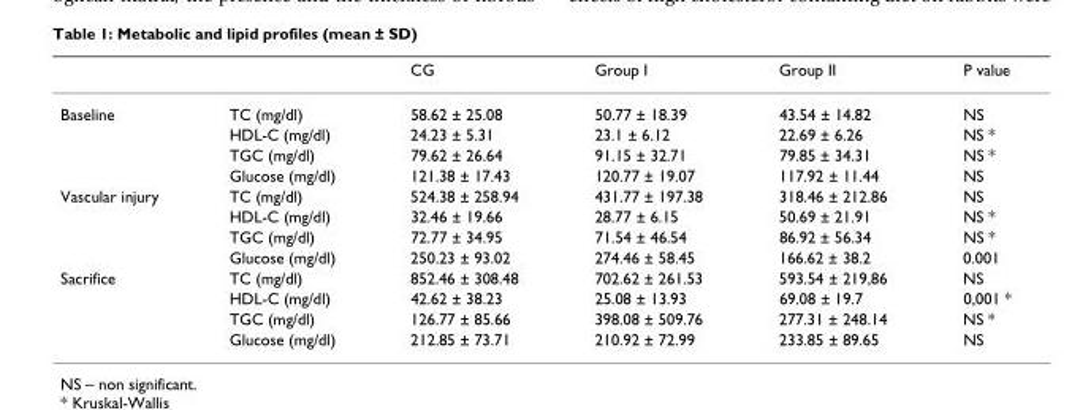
<table><thead><tr><td></td><td></td><td>CG</td><td>Group I</td><td>Group II</td><td>P value</td></tr></thead><tbody><tr><td rowspan="4">Baseline</td><td>TC (mg/dl)</td><td>58.62 ± 25.08</td><td>50.77 ± 18.39</td><td>43.54 ± 14.82</td><td>NS</td></tr><tr><td>HDL-C (mg/dl)</td><td>24.23 ± 5.31</td><td>23.1 ± 6.12</td><td>22.69 ± 6.26</td><td>NS *</td></tr><tr><td>TGC (mg/dl)</td><td>79.62 ± 26.64</td><td>91.15 ± 32.71</td><td>79.85 ± 34.31</td><td>NS *</td></tr><tr><td>Glucose (mg/dl)</td><td>121.38 ± 17.43</td><td>120.77 ± 19.07</td><td>117.92 ± 11.44</td><td>NS</td></tr><tr><td rowspan="4">Vascular injury</td><td>TC (mg/dl)</td><td>524.38 ± 258.94</td><td>431.77 ± 197.38</td><td>318.46 ± 212.86</td><td>NS</td></tr><tr><td>HDL-C (mg/dl)</td><td>32.46 ± 19.66</td><td>28.77 ± 6.15</td><td>50.69 ± 21.91</td><td>NS *</td></tr><tr><td>TGC (mg/dl)</td><td>72.77 ± 34.95</td><td>71.54 ± 46.54</td><td>86.92 ± 56.34</td><td>NS *</td></tr><tr><td>Glucose (mg/dl)</td><td>250.23 ± 93.02</td><td>274.46 ± 58.45</td><td>166.62 ± 38.2</td><td>0.001</td></tr><tr><td rowspan="4">Sacrifice</td><td>TC (mg/dl)</td><td>852.46 ± 308.48</td><td>702.62 ± 261.53</td><td>593.54 ± 219,86</td><td>NS</td></tr><tr><td>HDL-C (mg/dl)</td><td>42.62 ± 38.23</td><td>25.08 ± 13.93</td><td>69.08 ± 19.7</td><td>0,001 *</td></tr><tr><td>TGC (mg/dl)</td><td>126.77 ± 85.66</td><td>398.08 ± 509.76</td><td>277.31 ± 248.14</td><td>NS *</td></tr><tr><td>Glucose (mg/dl)</td><td>212.85 ± 73.71</td><td>210.92 ± 72.99</td><td>233.85 ± 89.65</td><td>NS</td></tr></tbody></table>